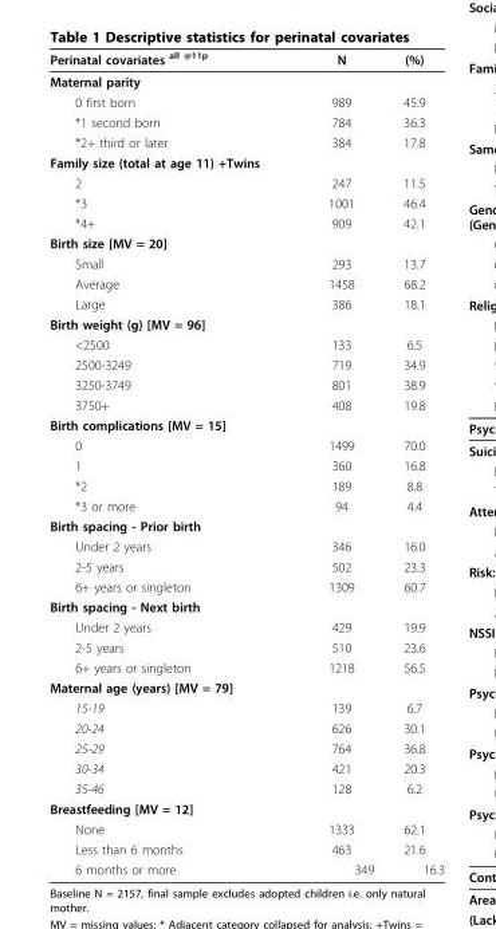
<table><thead><tr><td>Perinatal covariates <sup>all @11p</sup></td><td>N</td><td>(%)</td></tr></thead><tbody><tr><td colspan="3">Maternal parity</td></tr><tr><td>0 first born</td><td>989</td><td>45.9</td></tr><tr><td>*1 second born</td><td>784</td><td>36.3</td></tr><tr><td>*2+ third or later</td><td>384</td><td>17.8</td></tr><tr><td colspan="3">Family size (total at age 11) +Twins</td></tr><tr><td>2</td><td>247</td><td>11.5</td></tr><tr><td>*3</td><td>1001</td><td>46.4</td></tr><tr><td>*4+</td><td>909</td><td>42.1</td></tr><tr><td colspan="3">Birth size [MV = 20]</td></tr><tr><td>Small</td><td>293</td><td>13.7</td></tr><tr><td>Average</td><td>1458</td><td>68.2</td></tr><tr><td>Large</td><td>386</td><td>18.1</td></tr><tr><td colspan="3">Birth weight (g) [MV = 96]</td></tr><tr><td>&lt;2500</td><td>133</td><td>6.5</td></tr><tr><td>2500-3249</td><td>719</td><td>34.9</td></tr><tr><td>3250-3749</td><td>801</td><td>38.9</td></tr><tr><td>3750+</td><td>408</td><td>19.8</td></tr><tr><td colspan="3">Birth complications [MV = 15]</td></tr><tr><td>0</td><td>1499</td><td>70.0</td></tr><tr><td>1</td><td>360</td><td>16.8</td></tr><tr><td>*2</td><td>189</td><td>8.8</td></tr><tr><td>*3 or more</td><td>94</td><td>4.4</td></tr><tr><td colspan="3">Birth spacing - Prior birth</td></tr><tr><td>Under 2 years</td><td>346</td><td>16.0</td></tr><tr><td>2-5 years</td><td>502</td><td>23.3</td></tr><tr><td>6+ years or singleton</td><td>1309</td><td>60.7</td></tr><tr><td colspan="3">Birth spacing - Next birth</td></tr><tr><td>Under 2 years</td><td>429</td><td>19.9</td></tr><tr><td>2-5 years</td><td>510</td><td>23.6</td></tr><tr><td>6+ years or singleton</td><td>1218</td><td>56.5</td></tr><tr><td colspan="3">Maternal age (years) [MV = 79]</td></tr><tr><td>15-19</td><td>139</td><td>6.7</td></tr><tr><td>20-24</td><td>626</td><td>30.1</td></tr><tr><td>25-29</td><td>764</td><td>36.8</td></tr><tr><td>30-34</td><td>421</td><td>20.3</td></tr><tr><td>35-46</td><td>128</td><td>6.2</td></tr><tr><td colspan="3">Breastfeeding [MV = 12]</td></tr><tr><td>None</td><td>1333</td><td>62.1</td></tr><tr><td>Less than 6 months</td><td>463</td><td>21.6</td></tr><tr><td>6 months or more</td><td>349</td><td>16.3</td></tr></tbody></table>